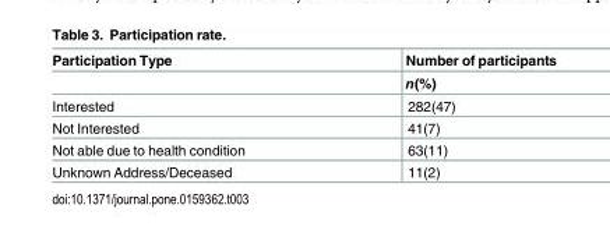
<table><thead><tr><td rowspan="2">Participation Type</td><td rowspan="2">Number of participants n(%)</td></tr><tr></tr></thead><tbody><tr><td>Interested</td><td>282(47)</td></tr><tr><td>Not Interested</td><td>41(7)</td></tr><tr><td>Not able due to health condition</td><td>63(11)</td></tr><tr><td>Unknown Address/Deceased</td><td>11(2)</td></tr></tbody></table>